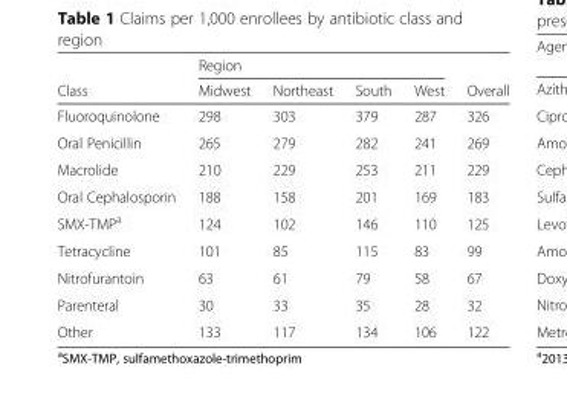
<table><thead><tr><td rowspan="2">Class</td><td colspan="4">Region</td><td rowspan="2">Overall</td></tr><tr><td>Midwest</td><td>Northeast</td><td>South</td><td>West</td></tr></thead><tbody><tr><td>Fluoroquinolone</td><td>298</td><td>303</td><td>379</td><td>287</td><td>326</td></tr><tr><td>Oral Penicillin</td><td>265</td><td>279</td><td>282</td><td>241</td><td>269</td></tr><tr><td>Macrolide</td><td>210</td><td>229</td><td>253</td><td>211</td><td>229</td></tr><tr><td>Oral Cephalosporin</td><td>188</td><td>158</td><td>201</td><td>169</td><td>183</td></tr><tr><td>SMX-TMP<sup>a</sup></td><td>124</td><td>102</td><td>146</td><td>110</td><td>125</td></tr><tr><td>Tetracycline</td><td>101</td><td>85</td><td>115</td><td>83</td><td>99</td></tr><tr><td>Nitrofurantoin</td><td>63</td><td>61</td><td>79</td><td>58</td><td>67</td></tr><tr><td>Parenteral</td><td>30</td><td>33</td><td>35</td><td>28</td><td>32</td></tr><tr><td>Other</td><td>133</td><td>117</td><td>134</td><td>106</td><td>122</td></tr></tbody></table>